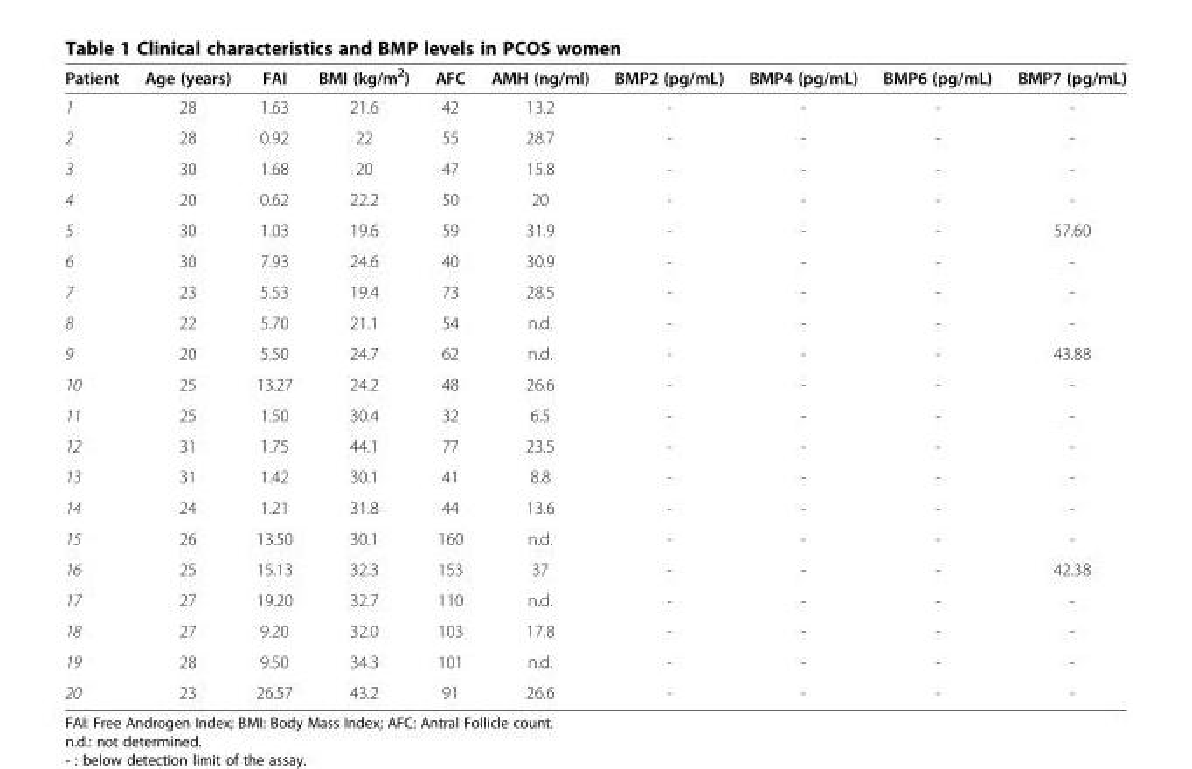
<table><thead><tr><td>Patient</td><td>Age (years)</td><td>FAI</td><td>BMI (kg/m<sup>2</sup>)</td><td>AFC</td><td>AMH (ng/ml)</td><td>BMP2 (pg/mL)</td><td>BMP4 (pg/mL)</td><td>BMP6 (pg/mL)</td><td>BMP7 (pg/mL)</td></tr></thead><tbody><tr><td>1</td><td>28</td><td>1.63</td><td>21.6</td><td>42</td><td>13.2</td><td>-</td><td>-</td><td>-</td><td>-</td></tr><tr><td>2</td><td>28</td><td>0.92</td><td>22</td><td>55</td><td>28.7</td><td>-</td><td>-</td><td>-</td><td>-</td></tr><tr><td>3</td><td>30</td><td>1.68</td><td>20</td><td>47</td><td>15.8</td><td>-</td><td>-</td><td>-</td><td>-</td></tr><tr><td>4</td><td>20</td><td>0.62</td><td>22.2</td><td>50</td><td>20</td><td>-</td><td>-</td><td>-</td><td>-</td></tr><tr><td>5</td><td>30</td><td>1.03</td><td>19.6</td><td>59</td><td>31.9</td><td>-</td><td>-</td><td>-</td><td>57.60</td></tr><tr><td>6</td><td>30</td><td>7.93</td><td>24.6</td><td>40</td><td>30.9</td><td>-</td><td>-</td><td>-</td><td>-</td></tr><tr><td>7</td><td>23</td><td>5.53</td><td>19.4</td><td>73</td><td>28.5</td><td>-</td><td>-</td><td>-</td><td>-</td></tr><tr><td>8</td><td>22</td><td>5.70</td><td>21.1</td><td>54</td><td>n.d.</td><td>-</td><td>-</td><td>-</td><td>-</td></tr><tr><td>9</td><td>20</td><td>5.50</td><td>24.7</td><td>62</td><td>n.d.</td><td>-</td><td>-</td><td>-</td><td>43.88</td></tr><tr><td>10</td><td>25</td><td>13.27</td><td>24.2</td><td>48</td><td>26.6</td><td>-</td><td>-</td><td>-</td><td>-</td></tr><tr><td>11</td><td>25</td><td>1.50</td><td>30.4</td><td>32</td><td>6.5</td><td>-</td><td>-</td><td>-</td><td>-</td></tr><tr><td>12</td><td>31</td><td>1.75</td><td>44.1</td><td>77</td><td>23.5</td><td>-</td><td>-</td><td>-</td><td>-</td></tr><tr><td>13</td><td>31</td><td>1.42</td><td>30.1</td><td>41</td><td>8.8</td><td>-</td><td>-</td><td>-</td><td>-</td></tr><tr><td>14</td><td>24</td><td>1.21</td><td>31.8</td><td>44</td><td>13.6</td><td>-</td><td>-</td><td>-</td><td>-</td></tr><tr><td>15</td><td>26</td><td>13.50</td><td>30.1</td><td>160</td><td>n.d.</td><td>-</td><td>-</td><td>-</td><td>-</td></tr><tr><td>16</td><td>25</td><td>15.13</td><td>32.3</td><td>153</td><td>37</td><td>-</td><td>-</td><td>-</td><td>42.38</td></tr><tr><td>17</td><td>27</td><td>19.20</td><td>32.7</td><td>110</td><td>n.d.</td><td>-</td><td>-</td><td>-</td><td>-</td></tr><tr><td>18</td><td>27</td><td>9.20</td><td>32.0</td><td>103</td><td>17.8</td><td>-</td><td>-</td><td>-</td><td>-</td></tr><tr><td>19</td><td>28</td><td>9.50</td><td>34.3</td><td>101</td><td>n.d.</td><td>-</td><td>-</td><td>-</td><td>-</td></tr><tr><td>20</td><td>23</td><td>26.57</td><td>43.2</td><td>91</td><td>26.6</td><td>-</td><td>-</td><td>-</td><td>-</td></tr></tbody></table>